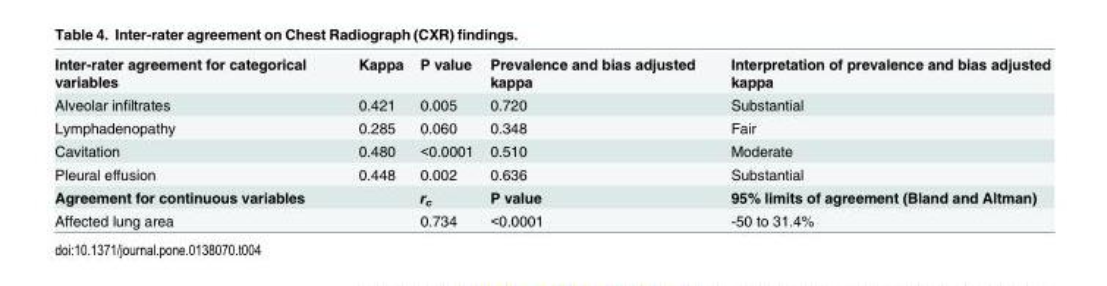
<table><tbody><tr><td>Inter-rater agreement for categorical variables</td><td>Kappa</td><td>P value</td><td>Prevalence and bias adjusted kappa</td><td>Interpretation of prevalence and bias adjusted kappa</td></tr><tr><td>Alveolar infiltrates</td><td>0.421</td><td>0.005</td><td>0.720</td><td>Substantial</td></tr><tr><td>Lymphadenopathy</td><td>0.285</td><td>0.060</td><td>0.348</td><td>Fair</td></tr><tr><td>Cavitation</td><td>0.480</td><td>&lt;0.0001</td><td>0.510</td><td>Moderate</td></tr><tr><td>Pleural effusion</td><td>0.448</td><td>0.002</td><td>0.636</td><td>Substantial</td></tr><tr><td>Agreement for continuous variables</td><td></td><td>r<sub>c</sub></td><td>P value</td><td>95% limits of agreement (Bland and Altman)</td></tr><tr><td>Affected lung area</td><td></td><td>0.734</td><td>&lt;0.0001</td><td>-50 to 31.4%</td></tr></tbody></table>